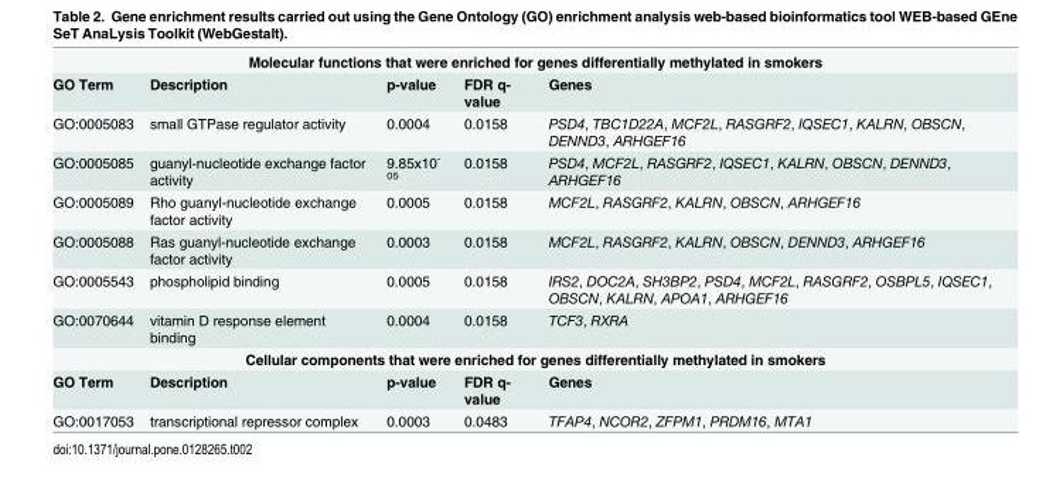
<table><tbody><tr><td colspan="5">Molecular functions that were enriched for genes differentially methylated in smokers</td></tr><tr><td>GO Term</td><td>Description</td><td>p-value</td><td>FDR q- value</td><td>Genes</td></tr><tr><td>GO:0005083</td><td>small GTPase regulator activity</td><td>0.0004</td><td>0.0158</td><td>PSD4, TBC1D22A, MCF2L, RASGRF2, IQSEC1, KALRN, OBSCN, DENND3, ARHGEF16</td></tr><tr><td>GO:0005085</td><td>guanyl-nucleotide exchange factor activity</td><td>9.85x10<sup>- 05</sup></td><td>0.0158</td><td>PSD4, MCF2L, RASGRF2, IQSEC1, KALRN, OBSCN, DENND3, ARHGEF16</td></tr><tr><td>GO:0005089</td><td>Rho guanyl-nucleotide exchange factor activity</td><td>0.0005</td><td>0.0158</td><td>MCF2L, RASGRF2, KALRN, OBSCN, ARHGEF16</td></tr><tr><td>GO:0005088</td><td>Ras guanyl-nucleotide exchange factor activity</td><td>0.0003</td><td>0.0158</td><td>MCF2L, RASGRF2, KALRN, OBSCN, DENND3, ARHGEF16</td></tr><tr><td>GO:0005543</td><td>phospholipid binding</td><td>0.0005</td><td>0.0158</td><td>IRS2, DOC2A, SH3BP2, PSD4, MCF2L, RASGRF2, OSBPL5, IQSEC1, OBSCN, KALRN, APOA1, ARHGEF16</td></tr><tr><td>GO:0070644</td><td>vitamin D response element binding</td><td>0.0004</td><td>0.0158</td><td>TCF3, RXRA</td></tr><tr><td colspan="5">Cellular components that were enriched for genes differentially methylated in smokers</td></tr><tr><td>GO Term</td><td>Description</td><td>p-value</td><td>FDR q- value</td><td>Genes</td></tr><tr><td>GO:0017053</td><td>transcriptional repressor complex</td><td>0.0003</td><td>0.0483</td><td>TFAP4, NCOR2, ZFPM1, PRDM16, MTA1</td></tr></tbody></table>